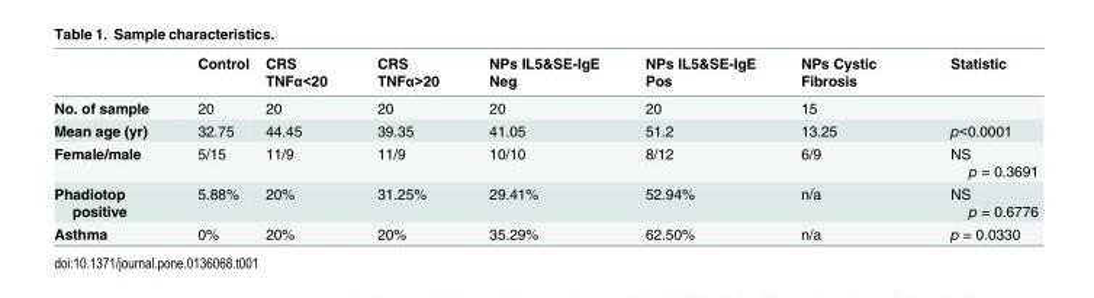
<table><thead><tr><td></td><td>Control</td><td>CRS TNFα&lt;20</td><td>CRS TNFα&gt;20</td><td>NPs IL5&amp;SE-IgE Neg</td><td>NPs IL5&amp;SE-IgE Pos</td><td>NPs Cystic Fibrosis</td><td>Statistic</td></tr></thead><tbody><tr><td>No. of sample</td><td>20</td><td>20</td><td>20</td><td>20</td><td>20</td><td>15</td><td></td></tr><tr><td>Mean age (yr)</td><td>32.75</td><td>44.45</td><td>39.35</td><td>41.05</td><td>51.2</td><td>13.25</td><td>p&lt;0.0001</td></tr><tr><td>Female/male</td><td>5/15</td><td>11/9</td><td>11/9</td><td>10/10</td><td>8/12</td><td>6/9</td><td>NS p = 0.3691</td></tr><tr><td>Phadiotop positive</td><td>5.88%</td><td>20%</td><td>31.25%</td><td>29.41%</td><td>52.94%</td><td>n/a</td><td>NS p = 0.6776</td></tr><tr><td>Asthma</td><td>0%</td><td>20%</td><td>20%</td><td>35.29%</td><td>62.50%</td><td>n/a</td><td>p = 0.0330</td></tr></tbody></table>